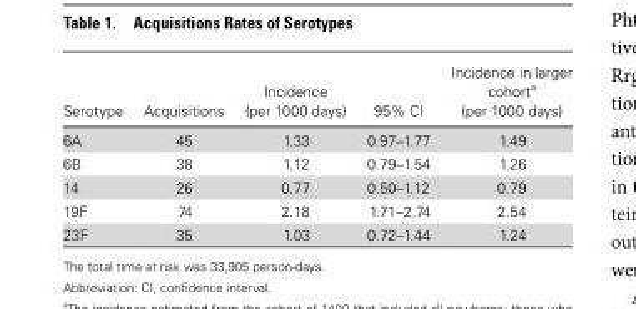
<table><thead><tr><td>Serotype</td><td>Acquisitions</td><td>Incidence (per 1000 days)</td><td>95% CI</td><td>Incidence in larger cohort<sup>a</sup> (per 1000 days)</td></tr></thead><tbody><tr><td>6A</td><td>45</td><td>1.33</td><td>0.97–1.77</td><td>1.49</td></tr><tr><td>6B</td><td>38</td><td>1.12</td><td>0.79–1.54</td><td>1.26</td></tr><tr><td>14</td><td>26</td><td>0.77</td><td>0.50–1.12</td><td>0.79</td></tr><tr><td>19F</td><td>74</td><td>2.18</td><td>1.71–2.74</td><td>2.54</td></tr><tr><td>23F</td><td>35</td><td>1.03</td><td>0.72–1.44</td><td>1.24</td></tr></tbody></table>